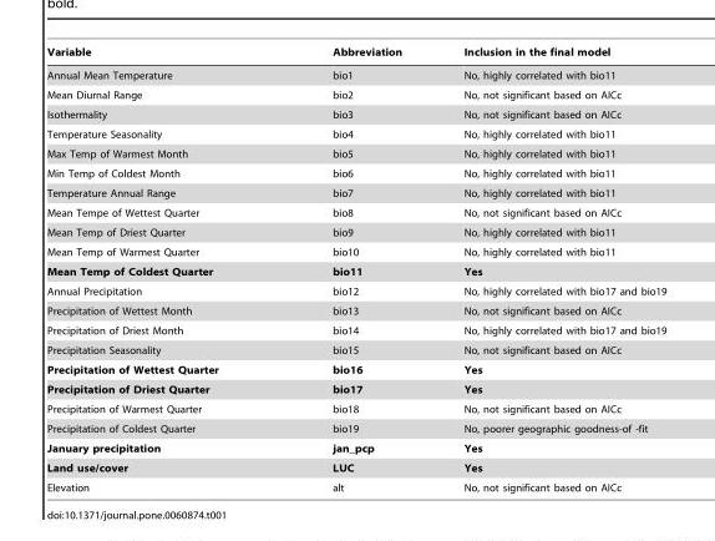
<table><thead><tr><td>Variable</td><td>Abbreviation</td><td>Inclusion in the final model</td></tr></thead><tbody><tr><td>Annual Mean Temperature</td><td>bio1</td><td>No, highly correlated with bio11</td></tr><tr><td>Mean Diurnal Range</td><td>bio2</td><td>No, not significant based on AICc</td></tr><tr><td>Isothermality</td><td>bio3</td><td>No, not significant based on AICc</td></tr><tr><td>Temperature Seasonality</td><td>bio4</td><td>No, highly correlated with bio11</td></tr><tr><td>Max Temp of Warmest Month</td><td>bio5</td><td>No, highly correlated with bio11</td></tr><tr><td>Min Temp of Coldest Month</td><td>bio6</td><td>No, highly correlated with bio11</td></tr><tr><td>Temperature Annual Range</td><td>bio7</td><td>No, highly correlated with bio11</td></tr><tr><td>Mean Tempe of Wettest Quarter</td><td>bio8</td><td>No, not significant based on AICc</td></tr><tr><td>Mean Temp of Driest Quarter</td><td>bio9</td><td>No, highly correlated with bio11</td></tr><tr><td>Mean Temp of Warmest Quarter</td><td>bio10</td><td>No, highly correlated with bio11</td></tr><tr><td>Mean Temp of Coldest Quarter</td><td>bio11</td><td>Yes</td></tr><tr><td>Annual Precipitation</td><td>bio12</td><td>No, highly correlated with bio17 and bio19</td></tr><tr><td>Precipitation of Wettest Month</td><td>bio13</td><td>No, not significant based on AICc</td></tr><tr><td>Precipitation of Driest Month</td><td>bio14</td><td>No, highly correlated with bio17 and bio19</td></tr><tr><td>Precipitation Seasonality</td><td>bio15</td><td>No, not significant based on AICc</td></tr><tr><td>Precipitation of Wettest Quarter</td><td>bio16</td><td>Yes</td></tr><tr><td>Precipitation of Driest Quarter</td><td>bio17</td><td>Yes</td></tr><tr><td>Precipitation of Warmest Quarter</td><td>bio18</td><td>No, not significant based on AICc</td></tr><tr><td>Precipitation of Coldest Quarter</td><td>bio19</td><td>No, poorer geographic goodness-of -fit</td></tr><tr><td>January precipitation</td><td>jan_pcp</td><td>Yes</td></tr><tr><td>Land use/cover</td><td>LUC</td><td>Yes</td></tr><tr><td>Elevation</td><td>alt</td><td>No, not significant based on AICc</td></tr></tbody></table>